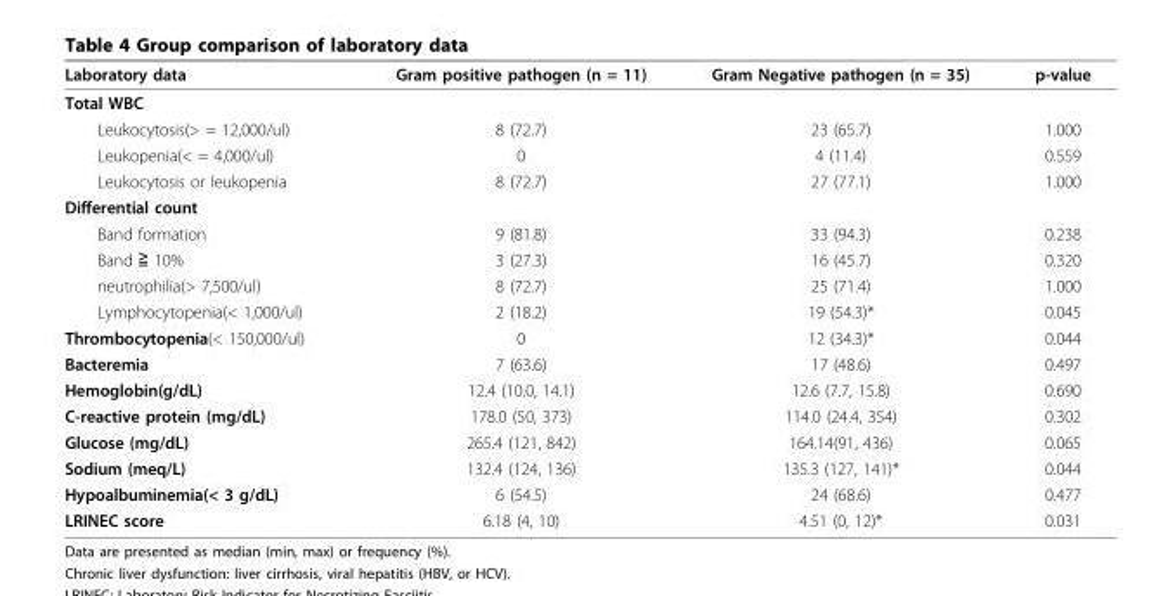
<table><thead><tr><td>Laboratory data</td><td>Gram positive pathogen (n = 11)</td><td>Gram Negative pathogen (n = 35)</td><td>p-value</td></tr></thead><tbody><tr><td colspan="4">Total WBC</td></tr><tr><td>Leukocytosis(&gt; = 12,000/ul)</td><td>8 (72.7)</td><td>23 (65.7)</td><td>1.000</td></tr><tr><td>Leukopenia(&lt; = 4,000/ul)</td><td>0</td><td>4 (11.4)</td><td>0.559</td></tr><tr><td>Leukocytosis or leukopenia</td><td>8 (72.7)</td><td>27 (77.1)</td><td>1.000</td></tr><tr><td colspan="4">Differential count</td></tr><tr><td>Band formation</td><td>9 (81.8)</td><td>33 (94.3)</td><td>0.238</td></tr><tr><td>Band ≧ 10%</td><td>3 (27.3)</td><td>16 (45.7)</td><td>0.320</td></tr><tr><td>neutrophilia(&gt; 7,500/ul)</td><td>8 (72.7)</td><td>25 (71.4)</td><td>1.000</td></tr><tr><td>Lymphocytopenia(&lt; 1,000/ul)</td><td>2 (18.2)</td><td>19 (54.3)*</td><td>0.045</td></tr><tr><td>Thrombocytopenia(&lt; 150,000/ul)</td><td>0</td><td>12 (34.3)*</td><td>0.044</td></tr><tr><td>Bacteremia</td><td>7 (63.6)</td><td>17 (48.6)</td><td>0.497</td></tr><tr><td>Hemoglobin(g/dL)</td><td>12.4 (10.0, 14.1)</td><td>12.6 (7.7, 15.8)</td><td>0.690</td></tr><tr><td>C-reactive protein (mg/dL)</td><td>178.0 (50, 373)</td><td>114.0 (24.4, 354)</td><td>0.302</td></tr><tr><td>Glucose (mg/dL)</td><td>265.4 (121, 842)</td><td>164.14(91, 436)</td><td>0.065</td></tr><tr><td>Sodium (meq/L)</td><td>132.4 (124, 136)</td><td>135.3 (127, 141)*</td><td>0.044</td></tr><tr><td>Hypoalbuminemia(&lt; 3 g/dL)</td><td>6 (54.5)</td><td>24 (68.6)</td><td>0.477</td></tr><tr><td>LRINEC score</td><td>6.18 (4, 10)</td><td>4.51 (0, 12)*</td><td>0.031</td></tr></tbody></table>